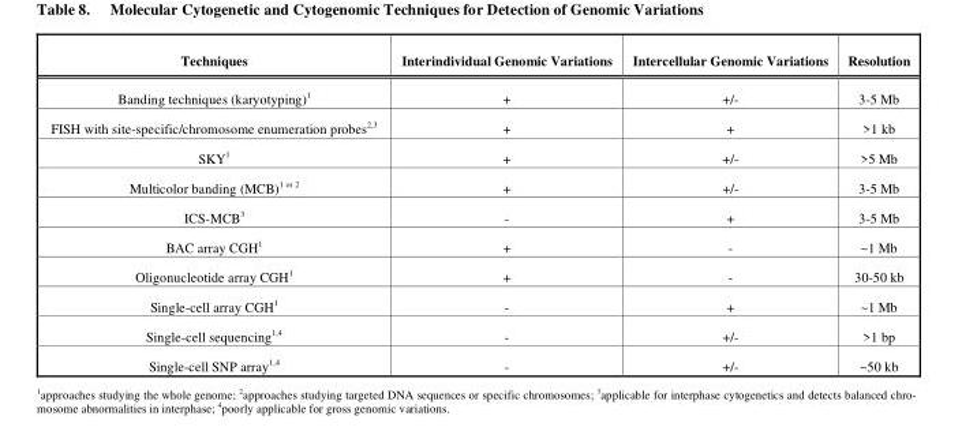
<table><thead><tr><td>Techniques</td><td>Interindividual Genomic Variations</td><td>Intercellular Genomic Variations</td><td>Resolution</td></tr></thead><tbody><tr><td>Banding techniques (karyotyping)<sup>1</sup></td><td>+</td><td>+/-</td><td>3-5 Mb</td></tr><tr><td>FISH with site-specific/chromosome enumeration probes<sup>2,3</sup></td><td>+</td><td>+</td><td>&gt;1 kb</td></tr><tr><td>SKY<sup>1</sup></td><td>+</td><td>+/-</td><td>&gt;5 Mb</td></tr><tr><td>Multicolor banding (MCB)<sup>1 or 2</sup></td><td>+</td><td>+/-</td><td>3-5 Mb</td></tr><tr><td>ICS-MCB<sup>3</sup></td><td>-</td><td>+</td><td>3-5 Mb</td></tr><tr><td>BAC array CGH<sup>1</sup></td><td>+</td><td>-</td><td>~1 Mb</td></tr><tr><td>Oligonucleotide array CGH<sup>1</sup></td><td>+</td><td>-</td><td>30-50 kb</td></tr><tr><td>Single-cell array CGH<sup>1</sup></td><td>-</td><td>+</td><td>~1 Mb</td></tr><tr><td>Single-cell sequencing<sup>1,4</sup></td><td>-</td><td>+/-</td><td>&gt;1 bp</td></tr><tr><td>Single-cell SNP array<sup>1,4</sup></td><td>-</td><td>+/-</td><td>~50 kb</td></tr></tbody></table>